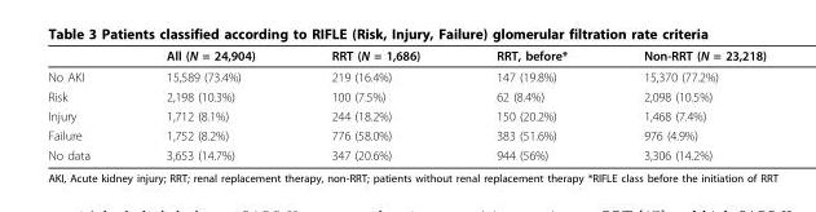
<table><thead><tr><td></td><td>All (N = 24,904)</td><td>RRT (N = 1,686)</td><td>RRT, before*</td><td>Non-RRT (N = 23,218)</td></tr></thead><tbody><tr><td>No AKI</td><td>15,589 (73.4%)</td><td>219 (16.4%)</td><td>147 (19.8%)</td><td>15,370 (77.2%)</td></tr><tr><td>Risk</td><td>2,198 (10.3%)</td><td>100 (7.5%)</td><td>62 (8.4%)</td><td>2,098 (10.5%)</td></tr><tr><td>Injury</td><td>1,712 (8.1%)</td><td>244 (18.2%)</td><td>150 (20.2%)</td><td>1,468 (7.4%)</td></tr><tr><td>Failure</td><td>1,752 (8.2%)</td><td>776 (58.0%)</td><td>383 (51.6%)</td><td>976 (4.9%)</td></tr><tr><td>No data</td><td>3,653 (14.7%)</td><td>347 (20.6%)</td><td>944 (56%)</td><td>3,306 (14.2%)</td></tr></tbody></table>